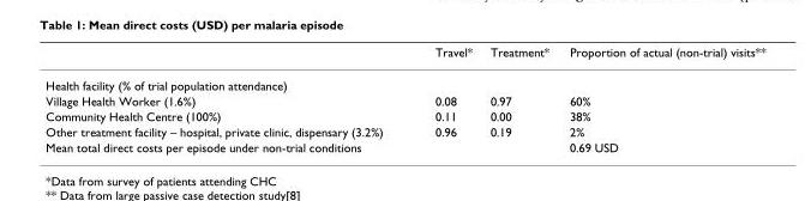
<table><thead><tr><td></td><td>Travel*</td><td>Treatment*</td><td>Proportion of actual (non-trial) visits**</td></tr></thead><tbody><tr><td colspan="4">Health facility (% of trial population attendance)</td></tr><tr><td>Village Health Worker (1.6%)</td><td>0.08</td><td>0.97</td><td>60%</td></tr><tr><td>Community Health Centre (100%)</td><td>0.11</td><td>0.00</td><td>38%</td></tr><tr><td>Other treatment facility – hospital, private clinic, dispensary (3.2%)</td><td>0.96</td><td>0.19</td><td>2%</td></tr><tr><td>Mean total direct costs per episode under non-trial conditions</td><td></td><td></td><td>0.69 USD</td></tr></tbody></table>